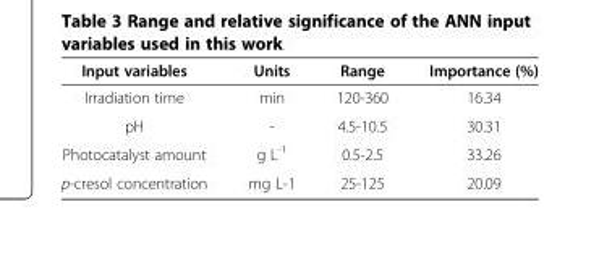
<table><thead><tr><td>Input variables</td><td>Units</td><td>Range</td><td>Importance (%)</td></tr></thead><tbody><tr><td>Irradiation time</td><td>min</td><td>120-360</td><td>16.34</td></tr><tr><td>pH</td><td>-</td><td>4.5-10.5</td><td>30.31</td></tr><tr><td>Photocatalyst amount</td><td>g L<sup>-1</sup></td><td>0.5-2.5</td><td>33.26</td></tr><tr><td>p-cresol concentration</td><td>mg L-1</td><td>25-125</td><td>20.09</td></tr></tbody></table>